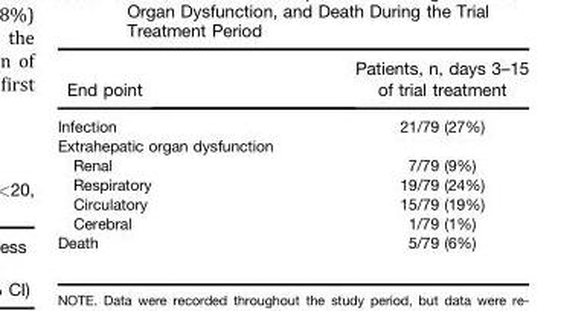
<table><thead><tr><td>End point</td><td>Patients, n, days 3–15 of trial treatment</td></tr></thead><tbody><tr><td>Infection</td><td>21/79 (27%)</td></tr><tr><td colspan="2">Extrahepatic organ dysfunction</td></tr><tr><td>Renal</td><td>7/79 (9%)</td></tr><tr><td>Respiratory</td><td>19/79 (24%)</td></tr><tr><td>Circulatory</td><td>15/79 (19%)</td></tr><tr><td>Cerebral</td><td>1/79 (1%)</td></tr><tr><td>Death</td><td>5/79 (6%)</td></tr></tbody></table>